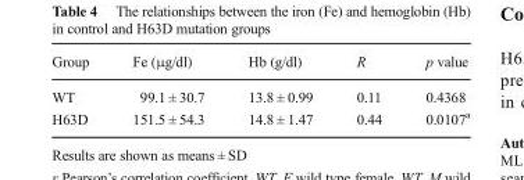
<table><thead><tr><td>Group</td><td>Fe (μg/dl)</td><td>Hb (g/dl)</td><td>R</td><td>p value</td></tr></thead><tbody><tr><td>WT</td><td>99.1 ± 30.7</td><td>13.8 ± 0.99</td><td>0.11</td><td>0.4368</td></tr><tr><td>H63D</td><td>151.5 ± 54.3</td><td>14.8 ± 1.47</td><td>0.44</td><td>0.0107<sup>a</sup></td></tr></tbody></table>